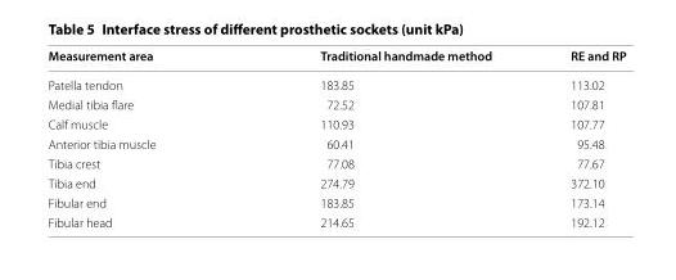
<table><thead><tr><td>Measurement area</td><td>Traditional handmade method</td><td>RE and RP</td></tr></thead><tbody><tr><td>Patella tendon</td><td>183.85</td><td>113.02</td></tr><tr><td>Medial tibia flare</td><td>72.52</td><td>107.81</td></tr><tr><td>Calf muscle</td><td>110.93</td><td>107.77</td></tr><tr><td>Anterior tibia muscle</td><td>60.41</td><td>95.48</td></tr><tr><td>Tibia crest</td><td>77.08</td><td>77.67</td></tr><tr><td>Tibia end</td><td>274.79</td><td>372.10</td></tr><tr><td>Fibular end</td><td>183.85</td><td>173.14</td></tr><tr><td>Fibular head</td><td>214.65</td><td>192.12</td></tr></tbody></table>